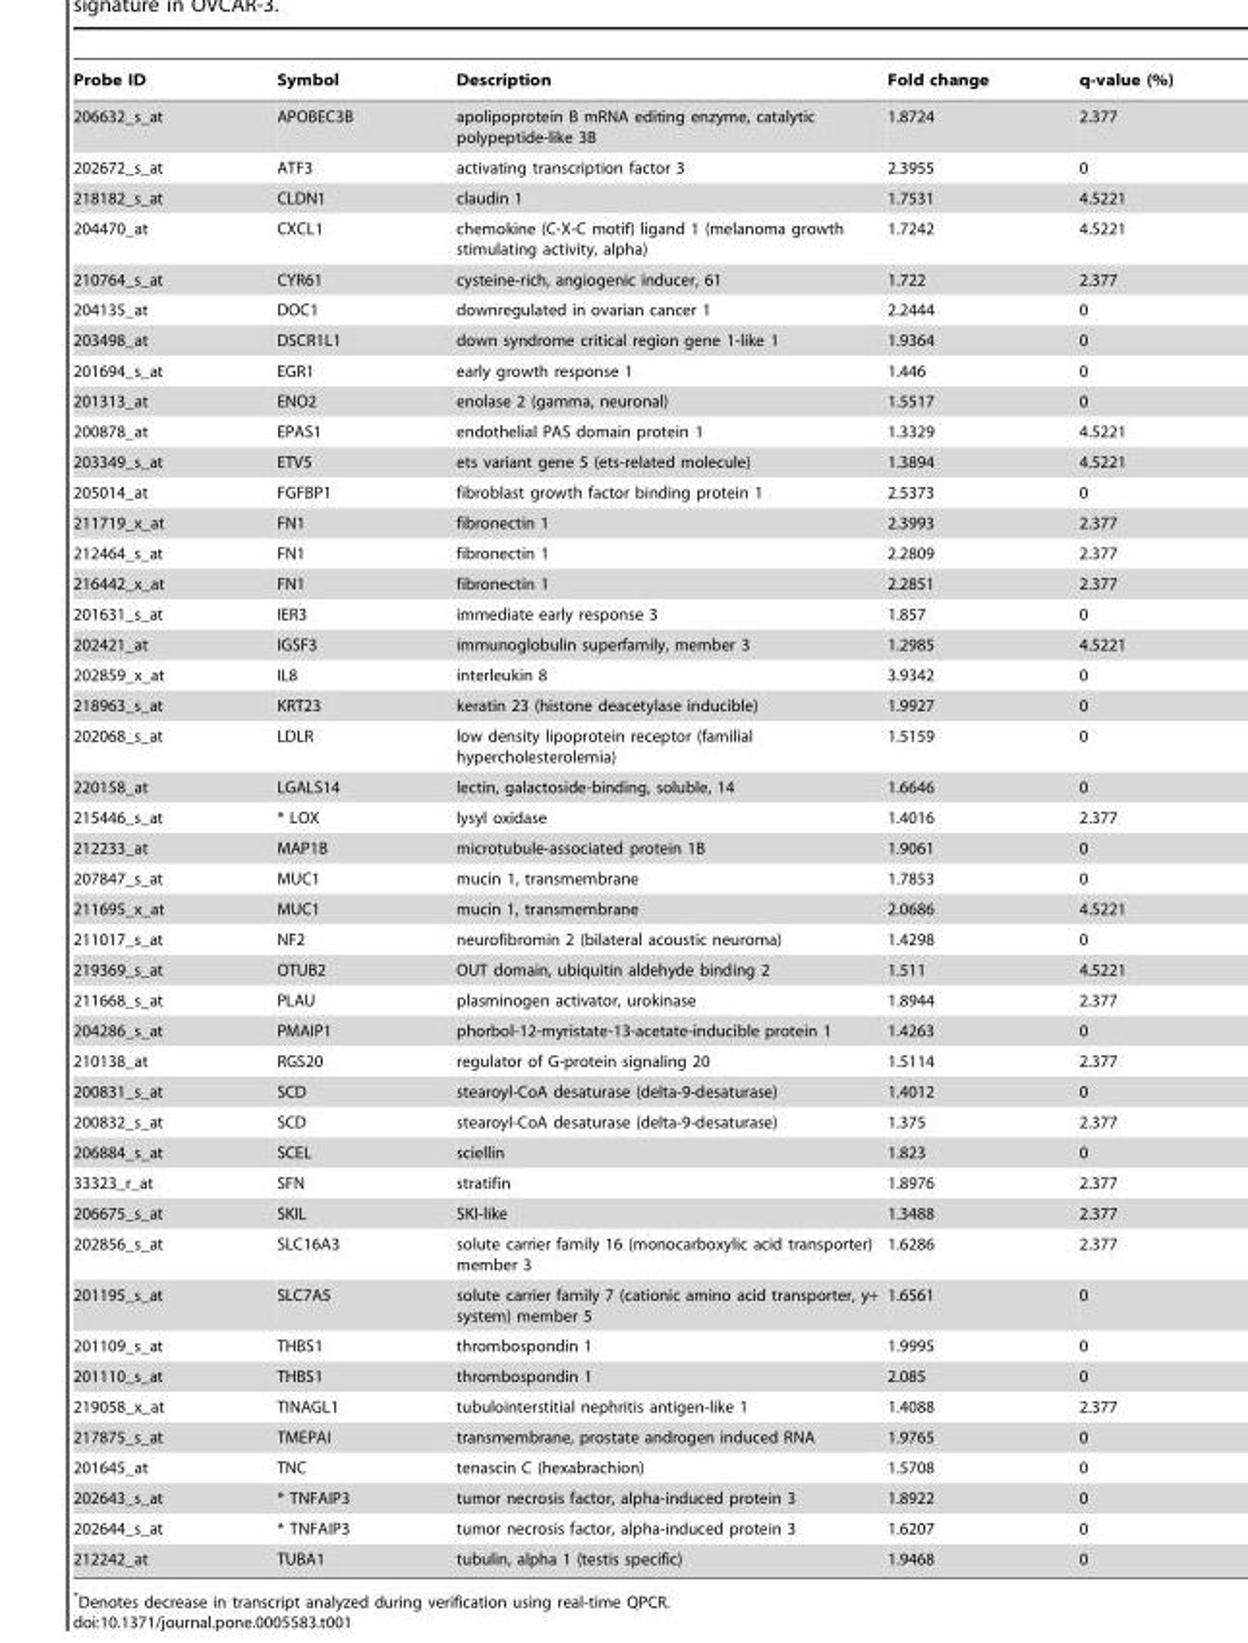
<table><thead><tr><td>Probe ID</td><td>Symbol</td><td>Description</td><td>Fold change</td><td>q-value (%)</td></tr></thead><tbody><tr><td>206632_s_at</td><td>APOBEC3B</td><td>apolipoprotein B mRNA editing enzyme, catalytic polypeptide-like 3B</td><td>1.8724</td><td>2.377</td></tr><tr><td>202672_s_at</td><td>ATF3</td><td>activating transcription factor 3</td><td>2.3955</td><td>0</td></tr><tr><td>218182_s_at</td><td>CLDN1</td><td>claudin 1</td><td>1.7531</td><td>4.5221</td></tr><tr><td>204470_at</td><td>CXCL1</td><td>chemokine (C-X-C motif) ligand 1 (melanoma growth stimulating activity, alpha)</td><td>1.7242</td><td>4.5221</td></tr><tr><td>210764_s_at</td><td>CYR61</td><td>cysteine-rich, angiogenic inducer, 61</td><td>1.722</td><td>2.377</td></tr><tr><td>204135_at</td><td>DOC1</td><td>downregulated in ovarian cancer 1</td><td>2.2444</td><td>0</td></tr><tr><td>203498_at</td><td>DSCR1L1</td><td>down syndrome critical region gene 1-like 1</td><td>1.9364</td><td>0</td></tr><tr><td>201694_s_at</td><td>EGR1</td><td>early growth response 1</td><td>1.446</td><td>0</td></tr><tr><td>201313_at</td><td>ENO2</td><td>enolase 2 (gamma, neuronal)</td><td>1.5517</td><td>0</td></tr><tr><td>200878_at</td><td>EPAS1</td><td>endothelial PAS domain protein 1</td><td>1.3329</td><td>4.5221</td></tr><tr><td>203349_s_at</td><td>ETV5</td><td>ets variant gene 5 (ets-related molecule)</td><td>1.3894</td><td>4.5221</td></tr><tr><td>205014_at</td><td>FGFBP1</td><td>fibroblast growth factor binding protein 1</td><td>2.5373</td><td>0</td></tr><tr><td>211719_x_at</td><td>FN1</td><td>fibronectin 1</td><td>2.3993</td><td>2.377</td></tr><tr><td>212464_s_at</td><td>FN1</td><td>fibronectin 1</td><td>2.2809</td><td>2.377</td></tr><tr><td>216442_x_at</td><td>FN1</td><td>fibronectin 1</td><td>2.2851</td><td>2.377</td></tr><tr><td>201631_s_at</td><td>IER3</td><td>immediate early response 3</td><td>1.857</td><td>0</td></tr><tr><td>202421_at</td><td>IGSF3</td><td>immunoglobulin superfamily, member 3</td><td>1.2985</td><td>4.5221</td></tr><tr><td>202859_x_at</td><td>IL8</td><td>interleukin 8</td><td>3.9342</td><td>0</td></tr><tr><td>218963_s_at</td><td>KRT23</td><td>keratin 23 (histone deacetylase inducible)</td><td>1.9927</td><td>0</td></tr><tr><td>202068_s_at</td><td>LDLR</td><td>low density lipoprotein receptor (familial hypercholesterolemia)</td><td>1.5159</td><td>0</td></tr><tr><td>220158_at</td><td>LGALS14</td><td>lectin, galactoside-binding, soluble, 14</td><td>1.6646</td><td>0</td></tr><tr><td>215446_s_at</td><td>* LOX</td><td>lysyl oxidase</td><td>1.4016</td><td>2.377</td></tr><tr><td>212233_at</td><td>MAP1B</td><td>microtubule-associated protein 1B</td><td>1.9061</td><td>0</td></tr><tr><td>207847_s_at</td><td>MUC1</td><td>mucin 1, transmembrane</td><td>1.7853</td><td>0</td></tr><tr><td>211695_x_at</td><td>MUC1</td><td>mucin 1, transmembrane</td><td>2.0686</td><td>4.5221</td></tr><tr><td>211017_s_at</td><td>NF2</td><td>neurofibromin 2 (bilateral acoustic neuroma)</td><td>1.4298</td><td>0</td></tr><tr><td>219369_s_at</td><td>OTUB2</td><td>OUT domain, ubiquitin aldehyde binding 2</td><td>1.511</td><td>4.5221</td></tr><tr><td>211668_s_at</td><td>PLAU</td><td>plasminogen activator, urokinase</td><td>1.8944</td><td>2.377</td></tr><tr><td>204286_s_at</td><td>PMAIP1</td><td>phorbol-12-myristate-13-acetate-inducible protein 1</td><td>1.4263</td><td>0</td></tr><tr><td>210138_at</td><td>RGS20</td><td>regulator of G-protein signaling 20</td><td>1.5114</td><td>2.377</td></tr><tr><td>200831_s_at</td><td>SCD</td><td>stearoyl-CoA desaturase (delta-9-desaturase)</td><td>1.4012</td><td>0</td></tr><tr><td>200832_s_at</td><td>SCD</td><td>stearoyl-CoA desaturase (delta-9-desaturase)</td><td>1.375</td><td>2.377</td></tr><tr><td>206884_s_at</td><td>SCEL</td><td>sciellin</td><td>1.823</td><td>0</td></tr><tr><td>33323_r_at</td><td>SFN</td><td>stratifin</td><td>1.8976</td><td>2.377</td></tr><tr><td>206675_s_at</td><td>SKIL</td><td>SKI-like</td><td>1.3488</td><td>2.377</td></tr><tr><td>202856_s_at</td><td>SLC16A3</td><td>solute carrier family 16 (monocarboxylic acid transporter) member 3</td><td>1.6286</td><td>2.377</td></tr><tr><td>201195_s_at</td><td>SLC7A5</td><td>solute carrier family 7 (cationic amino acid transporter, y+ system) member 5</td><td>1.6561</td><td>0</td></tr><tr><td>201109_s_at</td><td>THBS1</td><td>thrombospondin 1</td><td>1.9995</td><td>0</td></tr><tr><td>201110_s_at</td><td>THBS1</td><td>thrombospondin 1</td><td>2.085</td><td>0</td></tr><tr><td>219058_x_at</td><td>TINAGL1</td><td>tubulointerstitial nephritis antigen-like 1</td><td>1.4088</td><td>2.377</td></tr><tr><td>217875_s_at</td><td>TMEPAI</td><td>transmembrane, prostate androgen induced RNA</td><td>1.9765</td><td>0</td></tr><tr><td>201645_at</td><td>TNC</td><td>tenascin C (hexabrachion)</td><td>1.5708</td><td>0</td></tr><tr><td>202643_s_at</td><td>* TNFAIP3</td><td>tumor necrosis factor, alpha-induced protein 3</td><td>1.8922</td><td>0</td></tr><tr><td>202644_s_at</td><td>* TNFAIP3</td><td>tumor necrosis factor, alpha-induced protein 3</td><td>1.6207</td><td>0</td></tr><tr><td>212242_at</td><td>TUBA1</td><td>tubulin, alpha 1 (testis specific)</td><td>1.9468</td><td>0</td></tr></tbody></table>